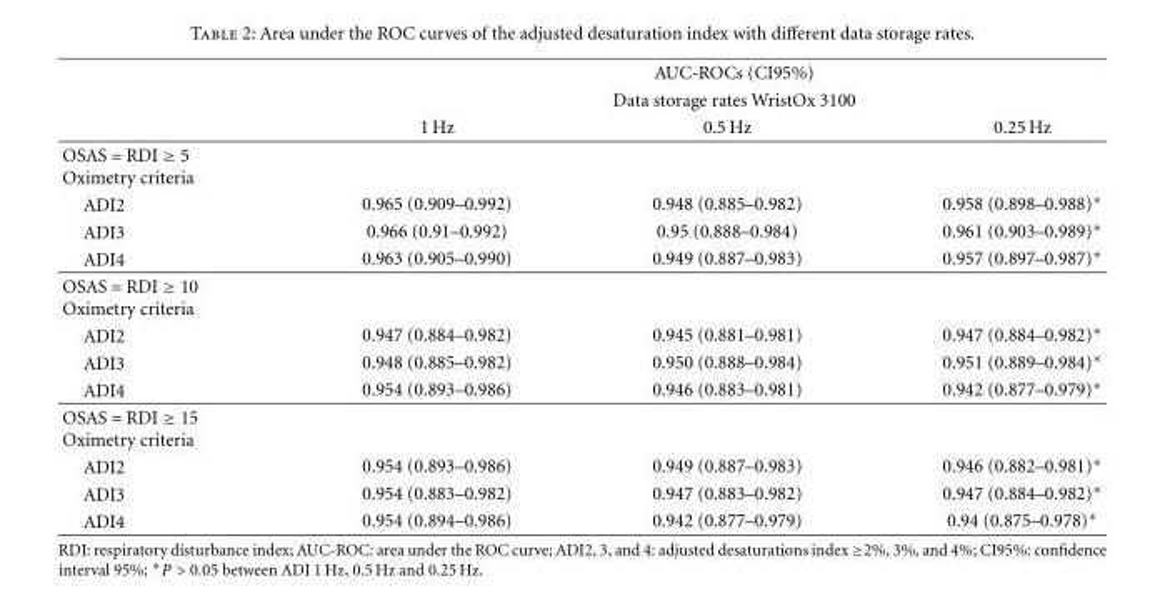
<table><thead><tr><td rowspan="3"></td><td rowspan="2" colspan="3">AUC-ROCs (CI95%) Data storage rates WristOx 3100</td></tr><tr></tr><tr><td>1 Hz</td><td>0.5 Hz</td><td>0.25 Hz</td></tr></thead><tbody><tr><td colspan="4">OSAS = RDI ≥ 5 Oximetry criteria</td></tr><tr><td>ADI2</td><td>0.965 (0.909–0.992)</td><td>0.948 (0.885–0.982)</td><td>0.958 (0.898–0.988)∗</td></tr><tr><td>ADI3</td><td>0.966 (0.91–0.992)</td><td>0.95 (0.888–0.984)</td><td>0.961 (0.903–0.989)∗</td></tr><tr><td>ADI4</td><td>0.963 (0.905–0.990)</td><td>0.949 (0.887–0.983)</td><td>0.957 (0.897–0.987)∗</td></tr><tr><td colspan="4">OSAS = RDI ≥ 10 Oximetry criteria</td></tr><tr><td>ADI2</td><td>0.947 (0.884–0.982)</td><td>0.945 (0.881–0.981)</td><td>0.947 (0.884–0.982)∗</td></tr><tr><td>ADI3</td><td>0.948 (0.885–0.982)</td><td>0.950 (0.888–0.984)</td><td>0.951 (0.889–0.984)∗</td></tr><tr><td>ADI4</td><td>0.954 (0.893–0.986)</td><td>0.946 (0.883–0.981)</td><td>0.942 (0.877–0.979)∗</td></tr><tr><td colspan="4">OSAS = RDI ≥ 15 Oximetry criteria</td></tr><tr><td>ADI2</td><td>0.954 (0.893–0.986)</td><td>0.949 (0.887–0.983)</td><td>0.946 (0.882–0.981)∗</td></tr><tr><td>ADI3</td><td>0.954 (0.883–0.982)</td><td>0.947 (0.883–0.982)</td><td>0.947 (0.884–0.982)∗</td></tr><tr><td>ADI4</td><td>0.954 (0.894–0.986)</td><td>0.942 (0.877–0.979)</td><td>0.94 (0.875–0.978)∗</td></tr></tbody></table>